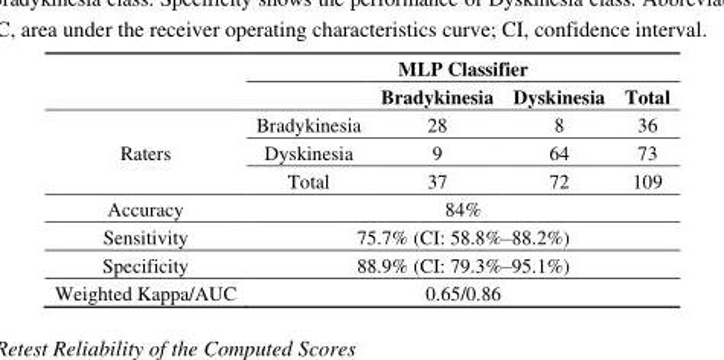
<table><thead><tr><td rowspan="2"></td><td colspan="4">MLP Classifier</td></tr><tr><td></td><td>Bradykinesia</td><td>Dyskinesia</td><td>Total</td></tr></thead><tbody><tr><td rowspan="3">Raters</td><td>Bradykinesia</td><td>28</td><td>8</td><td>36</td></tr><tr><td>Dyskinesia</td><td>9</td><td>64</td><td>73</td></tr><tr><td>Total</td><td>37</td><td>72</td><td>109</td></tr><tr><td>Accuracy</td><td colspan="4">84%</td></tr><tr><td>Sensitivity</td><td colspan="4">75.7% (CI: 58.8%–88.2%)</td></tr><tr><td>Specificity</td><td colspan="4">88.9% (CI: 79.3%–95.1%)</td></tr><tr><td>Weighted Kappa/AUC</td><td colspan="4">0.65/0.86</td></tr></tbody></table>